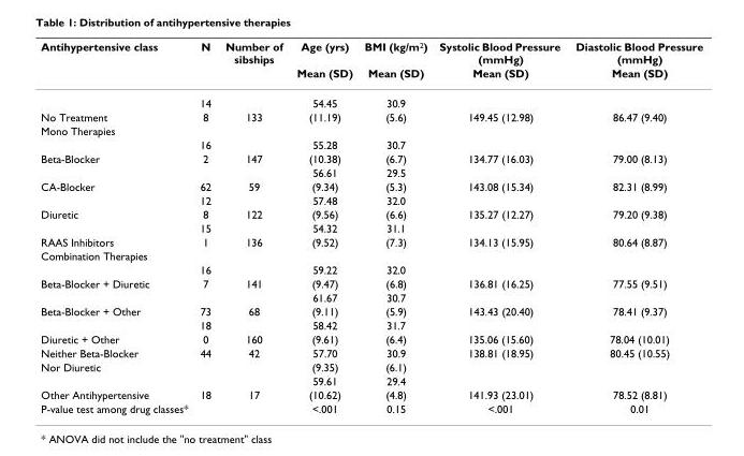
<table><thead><tr><td rowspan="2">Antihypertensive class</td><td rowspan="2">N</td><td rowspan="2">Number of sibships</td><td rowspan="2">Age (yrs) Mean (SD)</td><td rowspan="2">BMI (kg/m<sup>2</sup>) Mean (SD)</td><td rowspan="2">Systolic Blood Pressure (mmHg) Mean (SD)</td><td rowspan="2">Diastolic Blood Pressure (mmHg) Mean (SD)</td></tr><tr></tr></thead><tbody><tr><td></td><td>14</td><td></td><td>54.45</td><td>30.9</td><td></td><td></td></tr><tr><td>No Treatment</td><td>8</td><td>133</td><td>(11.19)</td><td>(5.6)</td><td>149.45 (12.98)</td><td>86.47 (9.40)</td></tr><tr><td colspan="7">Mono Therapies</td></tr><tr><td></td><td>16</td><td></td><td>55.28</td><td>30.7</td><td></td><td></td></tr><tr><td rowspan="2">Beta-Blocker</td><td>2</td><td>147</td><td>(10.38)</td><td>(6.7)</td><td>134.77 (16.03)</td><td>79.00 (8.13)</td></tr><tr><td></td><td></td><td>56.61</td><td>29.5</td><td></td><td></td></tr><tr><td rowspan="2">CA-Blocker</td><td>62</td><td>59</td><td>(9.34)</td><td>(5.3)</td><td>143.08 (15.34)</td><td>82.31 (8.99)</td></tr><tr><td>12</td><td></td><td>57.48</td><td>32.0</td><td></td><td></td></tr><tr><td rowspan="2">Diuretic</td><td>8</td><td>122</td><td>(9.56)</td><td>(6.6)</td><td>135.27 (12.27)</td><td>79.20 (9.38)</td></tr><tr><td>15</td><td></td><td>54.32</td><td>31.1</td><td></td><td></td></tr><tr><td>RAAS Inhibitors</td><td>1</td><td>136</td><td>(9.52)</td><td>(7.3)</td><td>134.13 (15.95)</td><td>80.64 (8.87)</td></tr><tr><td colspan="7">Combination Therapies</td></tr><tr><td></td><td>16</td><td></td><td>59.22</td><td>32.0</td><td></td><td></td></tr><tr><td rowspan="2">Beta-Blocker + Diuretic</td><td>7</td><td>141</td><td>(9.47)</td><td>(6.8)</td><td>136.81 (16.25)</td><td>77.55 (9.51)</td></tr><tr><td></td><td></td><td>61.67</td><td>30.7</td><td></td><td></td></tr><tr><td rowspan="2">Beta-Blocker + Other</td><td>73</td><td>68</td><td>(9.11)</td><td>(5.9)</td><td>143.43 (20.40)</td><td>78.41 (9.37)</td></tr><tr><td>18</td><td></td><td>58.42</td><td>31.7</td><td></td><td></td></tr><tr><td>Diuretic + Other</td><td>0</td><td>160</td><td>(9.61)</td><td>(6.4)</td><td>135.06 (15.60)</td><td>78.04 (10.01)</td></tr><tr><td>Neither Beta-Blocker</td><td>44</td><td>42</td><td>57.70</td><td>30.9</td><td>138.81 (18.95)</td><td>80.45 (10.55)</td></tr><tr><td rowspan="2">Nor Diuretic</td><td></td><td></td><td>(9.35)</td><td>(6.1)</td><td></td><td></td></tr><tr><td></td><td></td><td>59.61</td><td>29.4</td><td></td><td></td></tr><tr><td>Other Antihypertensive</td><td>18</td><td>17</td><td>(10.62)</td><td>(4.8)</td><td>141.93 (23.01)</td><td>78.52 (8.81)</td></tr><tr><td>P-value test among drug classes*</td><td></td><td></td><td>&lt;.001</td><td>0.15</td><td>&lt;.001</td><td>0.01</td></tr></tbody></table>